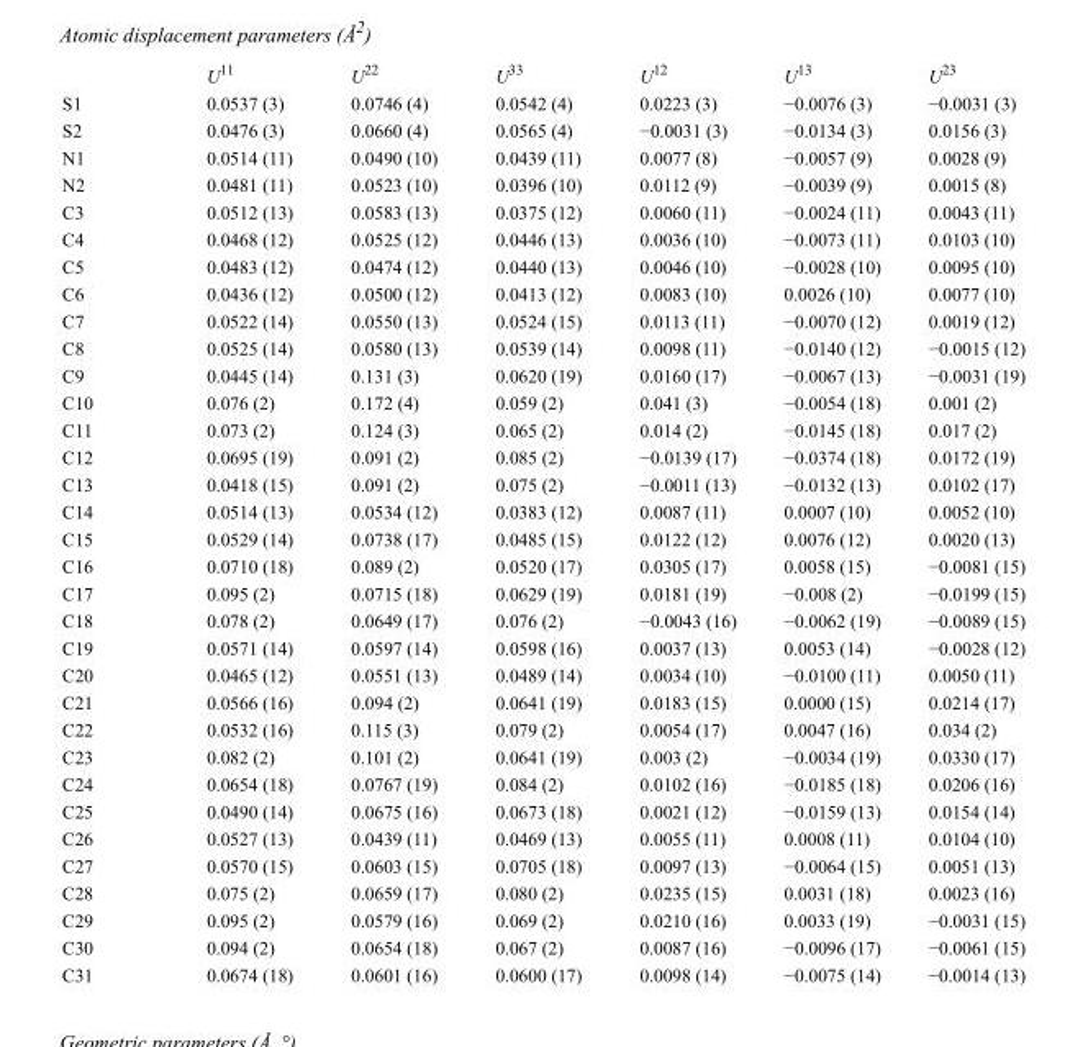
<table><thead><tr><td></td><td>U<sup>11</sup></td><td>U<sup>22</sup></td><td>U<sup>33</sup></td><td>U<sup>12</sup></td><td>U<sup>13</sup></td><td>U<sup>23</sup></td></tr></thead><tbody><tr><td>S1</td><td>0.0537 (3)</td><td>0.0746 (4)</td><td>0.0542 (4)</td><td>0.0223 (3)</td><td>−0.0076 (3)</td><td>−0.0031 (3)</td></tr><tr><td>S2</td><td>0.0476 (3)</td><td>0.0660 (4)</td><td>0.0565 (4)</td><td>−0.0031 (3)</td><td>−0.0134 (3)</td><td>0.0156 (3)</td></tr><tr><td>N1</td><td>0.0514 (11)</td><td>0.0490 (10)</td><td>0.0439 (11)</td><td>0.0077 (8)</td><td>−0.0057 (9)</td><td>0.0028 (9)</td></tr><tr><td>N2</td><td>0.0481 (11)</td><td>0.0523 (10)</td><td>0.0396 (10)</td><td>0.0112 (9)</td><td>−0.0039 (9)</td><td>0.0015 (8)</td></tr><tr><td>C3</td><td>0.0512 (13)</td><td>0.0583 (13)</td><td>0.0375 (12)</td><td>0.0060 (11)</td><td>−0.0024 (11)</td><td>0.0043 (11)</td></tr><tr><td>C4</td><td>0.0468 (12)</td><td>0.0525 (12)</td><td>0.0446 (13)</td><td>0.0036 (10)</td><td>−0.0073 (11)</td><td>0.0103 (10)</td></tr><tr><td>C5</td><td>0.0483 (12)</td><td>0.0474 (12)</td><td>0.0440 (13)</td><td>0.0046 (10)</td><td>−0.0028 (10)</td><td>0.0095 (10)</td></tr><tr><td>C6</td><td>0.0436 (12)</td><td>0.0500 (12)</td><td>0.0413 (12)</td><td>0.0083 (10)</td><td>0.0026 (10)</td><td>0.0077 (10)</td></tr><tr><td>C7</td><td>0.0522 (14)</td><td>0.0550 (13)</td><td>0.0524 (15)</td><td>0.0113 (11)</td><td>−0.0070 (12)</td><td>0.0019 (12)</td></tr><tr><td>C8</td><td>0.0525 (14)</td><td>0.0580 (13)</td><td>0.0539 (14)</td><td>0.0098 (11)</td><td>−0.0140 (12)</td><td>−0.0015 (12)</td></tr><tr><td>C9</td><td>0.0445 (14)</td><td>0.131 (3)</td><td>0.0620 (19)</td><td>0.0160 (17)</td><td>−0.0067 (13)</td><td>−0.0031 (19)</td></tr><tr><td>C10</td><td>0.076 (2)</td><td>0.172 (4)</td><td>0.059 (2)</td><td>0.041 (3)</td><td>−0.0054 (18)</td><td>0.001 (2)</td></tr><tr><td>C11</td><td>0.073 (2)</td><td>0.124 (3)</td><td>0.065 (2)</td><td>0.014 (2)</td><td>−0.0145 (18)</td><td>0.017 (2)</td></tr><tr><td>C12</td><td>0.0695 (19)</td><td>0.091 (2)</td><td>0.085 (2)</td><td>−0.0139 (17)</td><td>−0.0374 (18)</td><td>0.0172 (19)</td></tr><tr><td>C13</td><td>0.0418 (15)</td><td>0.091 (2)</td><td>0.075 (2)</td><td>−0.0011 (13)</td><td>−0.0132 (13)</td><td>0.0102 (17)</td></tr><tr><td>C14</td><td>0.0514 (13)</td><td>0.0534 (12)</td><td>0.0383 (12)</td><td>0.0087 (11)</td><td>0.0007 (10)</td><td>0.0052 (10)</td></tr><tr><td>C15</td><td>0.0529 (14)</td><td>0.0738 (17)</td><td>0.0485 (15)</td><td>0.0122 (12)</td><td>0.0076 (12)</td><td>0.0020 (13)</td></tr><tr><td>C16</td><td>0.0710 (18)</td><td>0.089 (2)</td><td>0.0520 (17)</td><td>0.0305 (17)</td><td>0.0058 (15)</td><td>−0.0081 (15)</td></tr><tr><td>C17</td><td>0.095 (2)</td><td>0.0715 (18)</td><td>0.0629 (19)</td><td>0.0181 (19)</td><td>−0.008 (2)</td><td>−0.0199 (15)</td></tr><tr><td>C18</td><td>0.078 (2)</td><td>0.0649 (17)</td><td>0.076 (2)</td><td>−0.0043 (16)</td><td>−0.0062 (19)</td><td>−0.0089 (15)</td></tr><tr><td>C19</td><td>0.0571 (14)</td><td>0.0597 (14)</td><td>0.0598 (16)</td><td>0.0037 (13)</td><td>0.0053 (14)</td><td>−0.0028 (12)</td></tr><tr><td>C20</td><td>0.0465 (12)</td><td>0.0551 (13)</td><td>0.0489 (14)</td><td>0.0034 (10)</td><td>−0.0100 (11)</td><td>0.0050 (11)</td></tr><tr><td>C21</td><td>0.0566 (16)</td><td>0.094 (2)</td><td>0.0641 (19)</td><td>0.0183 (15)</td><td>0.0000 (15)</td><td>0.0214 (17)</td></tr><tr><td>C22</td><td>0.0532 (16)</td><td>0.115 (3)</td><td>0.079 (2)</td><td>0.0054 (17)</td><td>0.0047 (16)</td><td>0.034 (2)</td></tr><tr><td>C23</td><td>0.082 (2)</td><td>0.101 (2)</td><td>0.0641 (19)</td><td>0.003 (2)</td><td>−0.0034 (19)</td><td>0.0330 (17)</td></tr><tr><td>C24</td><td>0.0654 (18)</td><td>0.0767 (19)</td><td>0.084 (2)</td><td>0.0102 (16)</td><td>−0.0185 (18)</td><td>0.0206 (16)</td></tr><tr><td>C25</td><td>0.0490 (14)</td><td>0.0675 (16)</td><td>0.0673 (18)</td><td>0.0021 (12)</td><td>−0.0159 (13)</td><td>0.0154 (14)</td></tr><tr><td>C26</td><td>0.0527 (13)</td><td>0.0439 (11)</td><td>0.0469 (13)</td><td>0.0055 (11)</td><td>0.0008 (11)</td><td>0.0104 (10)</td></tr><tr><td>C27</td><td>0.0570 (15)</td><td>0.0603 (15)</td><td>0.0705 (18)</td><td>0.0097 (13)</td><td>−0.0064 (15)</td><td>0.0051 (13)</td></tr><tr><td>C28</td><td>0.075 (2)</td><td>0.0659 (17)</td><td>0.080 (2)</td><td>0.0235 (15)</td><td>0.0031 (18)</td><td>0.0023 (16)</td></tr><tr><td>C29</td><td>0.095 (2)</td><td>0.0579 (16)</td><td>0.069 (2)</td><td>0.0210 (16)</td><td>0.0033 (19)</td><td>−0.0031 (15)</td></tr><tr><td>C30</td><td>0.094 (2)</td><td>0.0654 (18)</td><td>0.067 (2)</td><td>0.0087 (16)</td><td>−0.0096 (17)</td><td>−0.0061 (15)</td></tr><tr><td>C31</td><td>0.0674 (18)</td><td>0.0601 (16)</td><td>0.0600 (17)</td><td>0.0098 (14)</td><td>−0.0075 (14)</td><td>−0.0014 (13)</td></tr></tbody></table>